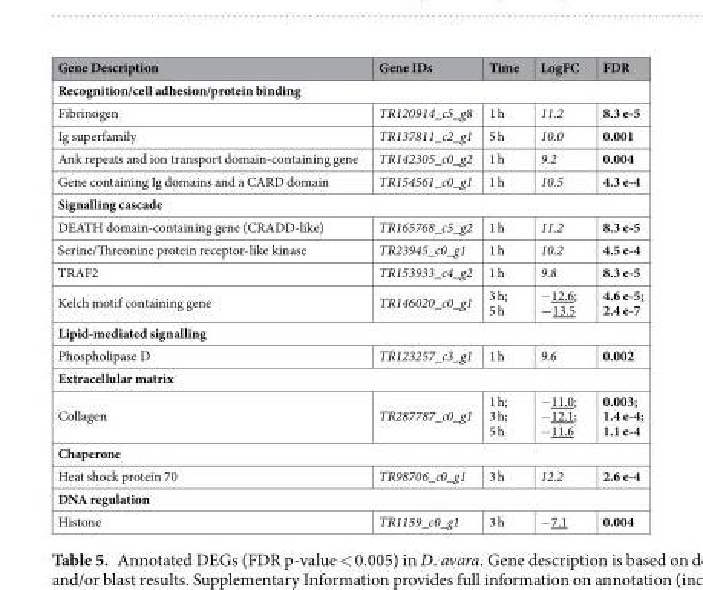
<table><thead><tr><td>Gene Description</td><td>Gene IDs</td><td>Time</td><td>LogFC</td><td>FDR</td></tr></thead><tbody><tr><td colspan="5">Recognition/cell adhesion/protein binding</td></tr><tr><td>Fibrinogen</td><td>TR120914_c5_g8</td><td>1 h</td><td>11.2</td><td>8.3 e-5</td></tr><tr><td>Ig superfamily</td><td>TR137811_c2_g1</td><td>5 h</td><td>10.0</td><td>0.001</td></tr><tr><td>Ank repeats and ion transport domain-containing gene</td><td>TR142305_c0_g2</td><td>1 h</td><td>9.2</td><td>0.004</td></tr><tr><td>Gene containing Ig domains and a CARD domain</td><td>TR154561_c0_g1</td><td>1 h</td><td>10.5</td><td>4.3 e-4</td></tr><tr><td colspan="5">Signalling cascade</td></tr><tr><td>DEATH domain-containing gene (CRADD-like)</td><td>TR165768_c5_g2</td><td>1 h</td><td>11.2</td><td>8.3 e-5</td></tr><tr><td>Serine/Threonine protein receptor-like kinase</td><td>TR23945_c0_g1</td><td>1 h</td><td>10.2</td><td>4.5 e-4</td></tr><tr><td>TRAF2</td><td>TR153933_c4_g2</td><td>1 h</td><td>9.8</td><td>8.3 e-5</td></tr><tr><td>Kelch motif containing gene</td><td>TR146020_c0_g1</td><td>3 h; 5 h</td><td>−12.6; −13.5</td><td>4.6 e-5; 2.4 e-7</td></tr><tr><td colspan="5">Lipid-mediated signalling</td></tr><tr><td>Phospholipase D</td><td>TR123257_c3_g1</td><td>1 h</td><td>9.6</td><td>0.002</td></tr><tr><td colspan="5">Extracellular matrix</td></tr><tr><td>Collagen</td><td>TR287787_c0_g1</td><td>1 h; 3 h; 5 h</td><td>−11.0; −12.1; −11.6</td><td>0.003; 1.4 e-4; 1.1 e-4</td></tr><tr><td colspan="5">Chaperone</td></tr><tr><td>Heat shock protein 70</td><td>TR98706_c0_g1</td><td>3 h</td><td>12.2</td><td>2.6 e-4</td></tr><tr><td colspan="5">DNA regulation</td></tr><tr><td>Histone</td><td>TR1159_c0_g1</td><td>3 h</td><td>−7.1</td><td>0.004</td></tr></tbody></table>